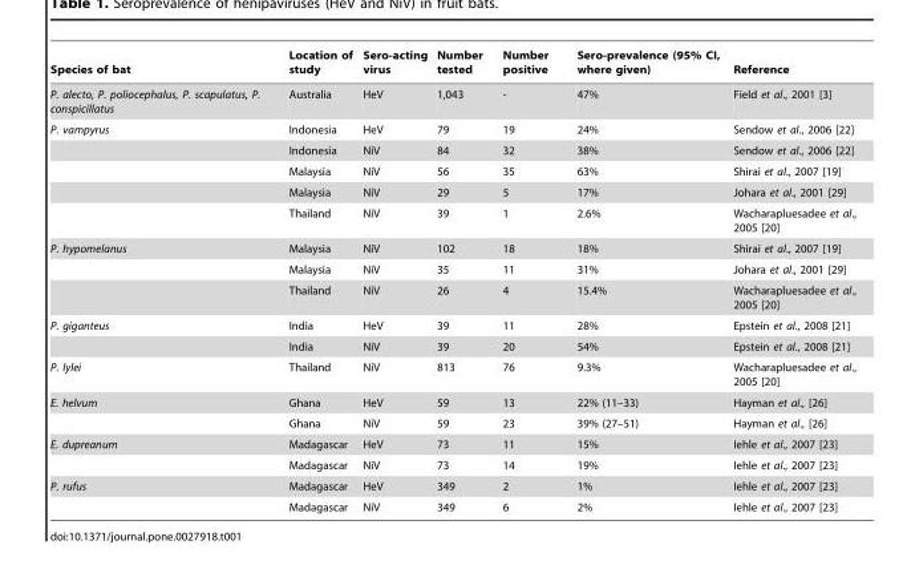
<table><thead><tr><td>Species of bat</td><td>Location of study</td><td>Sero-acting virus</td><td>Number tested</td><td>Number positive</td><td>Sero-prevalence (95% CI, where given)</td><td>Reference</td></tr></thead><tbody><tr><td>P. alecto, P. poliocephalus, P. scapulatus, P. conspicillatus</td><td>Australia</td><td>HeV</td><td>1,043</td><td>-</td><td>47%</td><td>Field et al., 2001 [3]</td></tr><tr><td rowspan="5">P. vampyrus</td><td>Indonesia</td><td>HeV</td><td>79</td><td>19</td><td>24%</td><td>Sendow et al., 2006 [22]</td></tr><tr><td>Indonesia</td><td>NiV</td><td>84</td><td>32</td><td>38%</td><td>Sendow et al., 2006 [22]</td></tr><tr><td>Malaysia</td><td>NiV</td><td>56</td><td>35</td><td>63%</td><td>Shirai et al., 2007 [19]</td></tr><tr><td>Malaysia</td><td>NiV</td><td>29</td><td>5</td><td>17%</td><td>Johara et al., 2001 [29]</td></tr><tr><td>Thailand</td><td>NiV</td><td>39</td><td>1</td><td>2.6%</td><td>Wacharapluesadee et al., 2005 [20]</td></tr><tr><td rowspan="3">P. hypomelanus</td><td>Malaysia</td><td>NiV</td><td>102</td><td>18</td><td>18%</td><td>Shirai et al., 2007 [19]</td></tr><tr><td>Malaysia</td><td>NiV</td><td>35</td><td>11</td><td>31%</td><td>Johara et al., 2001 [29]</td></tr><tr><td>Thailand</td><td>NiV</td><td>26</td><td>4</td><td>15.4%</td><td>Wacharapluesadee et al., 2005 [20]</td></tr><tr><td rowspan="2">P. giganteus</td><td>India</td><td>HeV</td><td>39</td><td>11</td><td>28%</td><td>Epstein et al., 2008 [21]</td></tr><tr><td>India</td><td>NiV</td><td>39</td><td>20</td><td>54%</td><td>Epstein et al., 2008 [21]</td></tr><tr><td>P. lylei</td><td>Thailand</td><td>NiV</td><td>813</td><td>76</td><td>9.3%</td><td>Wacharapluesadee et al., 2005 [20]</td></tr><tr><td rowspan="2">E. helvum</td><td>Ghana</td><td>HeV</td><td>59</td><td>13</td><td>22% (11–33)</td><td>Hayman et al., [26]</td></tr><tr><td>Ghana</td><td>NiV</td><td>59</td><td>23</td><td>39% (27–51)</td><td>Hayman et al., [26]</td></tr><tr><td rowspan="2">E. dupreanum</td><td>Madagascar</td><td>HeV</td><td>73</td><td>11</td><td>15%</td><td>Iehle et al., 2007 [23]</td></tr><tr><td>Madagascar</td><td>NiV</td><td>73</td><td>14</td><td>19%</td><td>Iehle et al., 2007 [23]</td></tr><tr><td rowspan="2">P. rufus</td><td>Madagascar</td><td>HeV</td><td>349</td><td>2</td><td>1%</td><td>Iehle et al., 2007 [23]</td></tr><tr><td>Madagascar</td><td>NiV</td><td>349</td><td>6</td><td>2%</td><td>Iehle et al., 2007 [23]</td></tr></tbody></table>